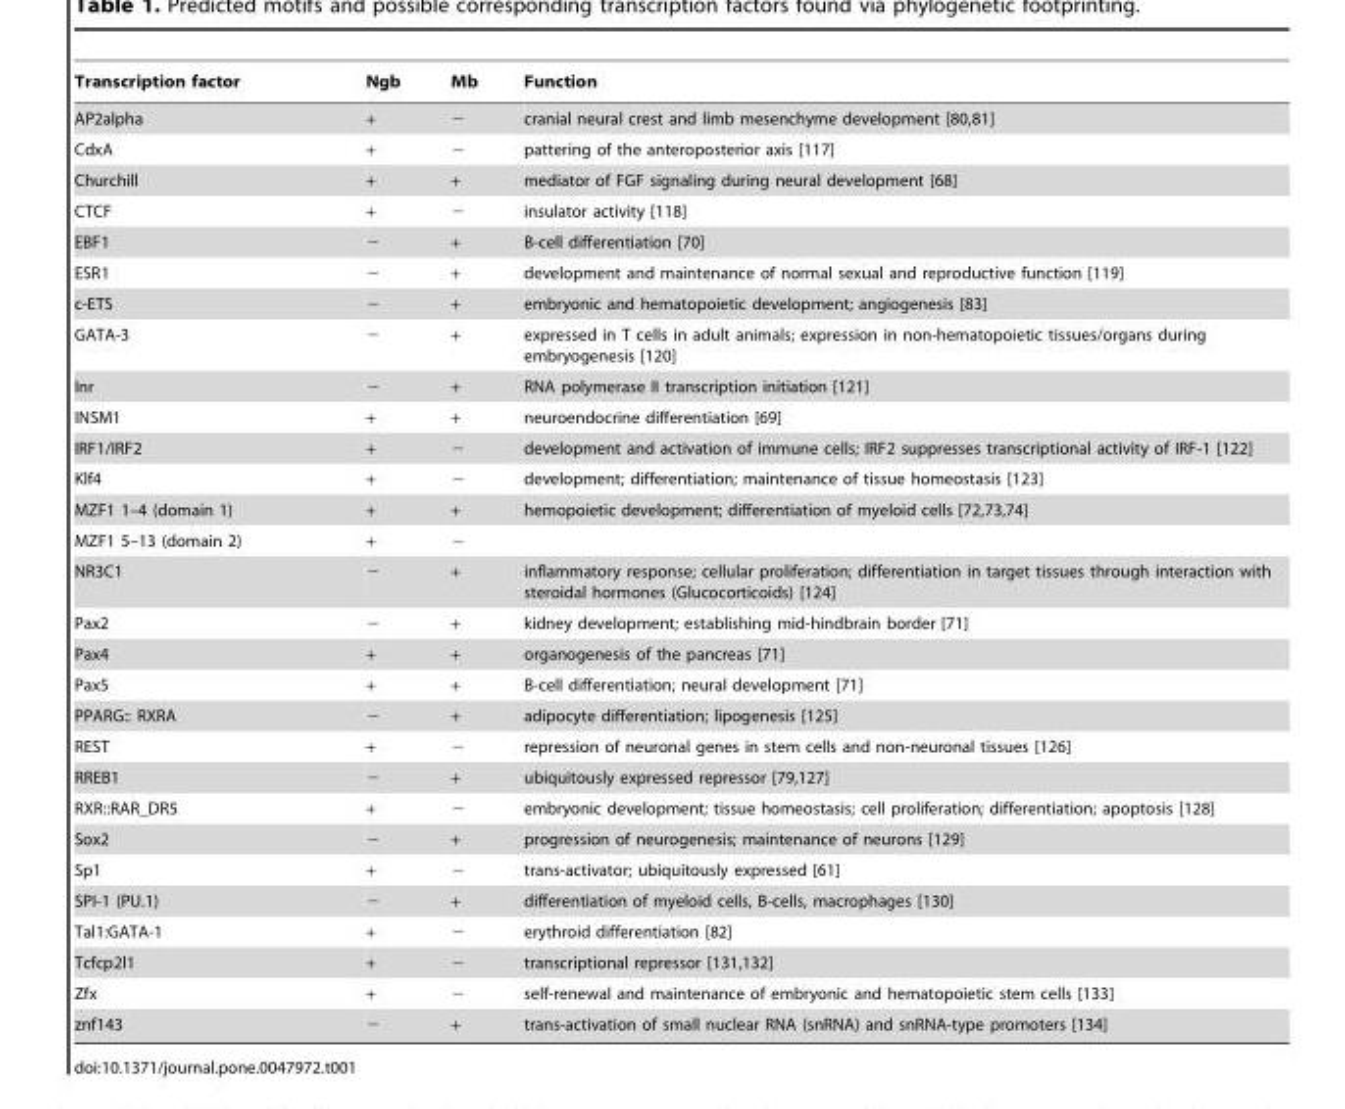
<table><thead><tr><td>Transcription factor</td><td>Ngb</td><td>Mb</td><td>Function</td></tr></thead><tbody><tr><td>AP2alpha</td><td>+</td><td>−</td><td>cranial neural crest and limb mesenchyme development [80,81]</td></tr><tr><td>CdxA</td><td>+</td><td>−</td><td>pattering of the anteroposterior axis [117]</td></tr><tr><td>Churchill</td><td>+</td><td>+</td><td>mediator of FGF signaling during neural development [68]</td></tr><tr><td>CTCF</td><td>+</td><td>−</td><td>insulator activity [118]</td></tr><tr><td>EBF1</td><td>−</td><td>+</td><td>B-cell differentiation [70]</td></tr><tr><td>ESR1</td><td>−</td><td>+</td><td>development and maintenance of normal sexual and reproductive function [119]</td></tr><tr><td>c-ETS</td><td>−</td><td>+</td><td>embryonic and hematopoietic development; angiogenesis [83]</td></tr><tr><td>GATA-3</td><td>−</td><td>+</td><td>expressed in T cells in adult animals; expression in non-hematopoietic tissues/organs during embryogenesis [120]</td></tr><tr><td>Inr</td><td>−</td><td>+</td><td>RNA polymerase II transcription initiation [121]</td></tr><tr><td>INSM1</td><td>+</td><td>+</td><td>neuroendocrine differentiation [69]</td></tr><tr><td>IRF1/IRF2</td><td>+</td><td>−</td><td>development and activation of immune cells; IRF2 suppresses transcriptional activity of IRF-1 [122]</td></tr><tr><td>Klf4</td><td>+</td><td>−</td><td>development; differentiation; maintenance of tissue homeostasis [123]</td></tr><tr><td>MZF1 1–4 (domain 1)</td><td>+</td><td>+</td><td>hemopoietic development; differentiation of myeloid cells [72,73,74]</td></tr><tr><td>MZF1 5–13 (domain 2)</td><td>+</td><td>−</td><td></td></tr><tr><td>NR3C1</td><td>−</td><td>+</td><td>inflammatory response; cellular proliferation; differentiation in target tissues through interaction with steroidal hormones (Glucocorticoids) [124]</td></tr><tr><td>Pax2</td><td>−</td><td>+</td><td>kidney development; establishing mid-hindbrain border [71]</td></tr><tr><td>Pax4</td><td>+</td><td>+</td><td>organogenesis of the pancreas [71]</td></tr><tr><td>Pax5</td><td>+</td><td>+</td><td>B-cell differentiation; neural development [71]</td></tr><tr><td>PPARG:: RXRA</td><td>−</td><td>+</td><td>adipocyte differentiation; lipogenesis [125]</td></tr><tr><td>REST</td><td>+</td><td>−</td><td>repression of neuronal genes in stem cells and non-neuronal tissues [126]</td></tr><tr><td>RREB1</td><td>−</td><td>+</td><td>ubiquitously expressed repressor [79,127]</td></tr><tr><td>RXR::RAR_DR5</td><td>+</td><td>−</td><td>embryonic development; tissue homeostasis; cell proliferation; differentiation; apoptosis [128]</td></tr><tr><td>Sox2</td><td>−</td><td>+</td><td>progression of neurogenesis; maintenance of neurons [129]</td></tr><tr><td>Sp1</td><td>+</td><td>−</td><td>trans-activator; ubiquitously expressed [61]</td></tr><tr><td>SPI-1 (PU.1)</td><td>−</td><td>+</td><td>differentiation of myeloid cells, B-cells, macrophages [130]</td></tr><tr><td>Tal1:GATA-1</td><td>+</td><td>−</td><td>erythroid differentiation [82]</td></tr><tr><td>Tcfcp2l1</td><td>+</td><td>−</td><td>transcriptional repressor [131,132]</td></tr><tr><td>Zfx</td><td>+</td><td>−</td><td>self-renewal and maintenance of embryonic and hematopoietic stem cells [133]</td></tr><tr><td>znf143</td><td>−</td><td>+</td><td>trans-activation of small nuclear RNA (snRNA) and snRNA-type promoters [134]</td></tr></tbody></table>